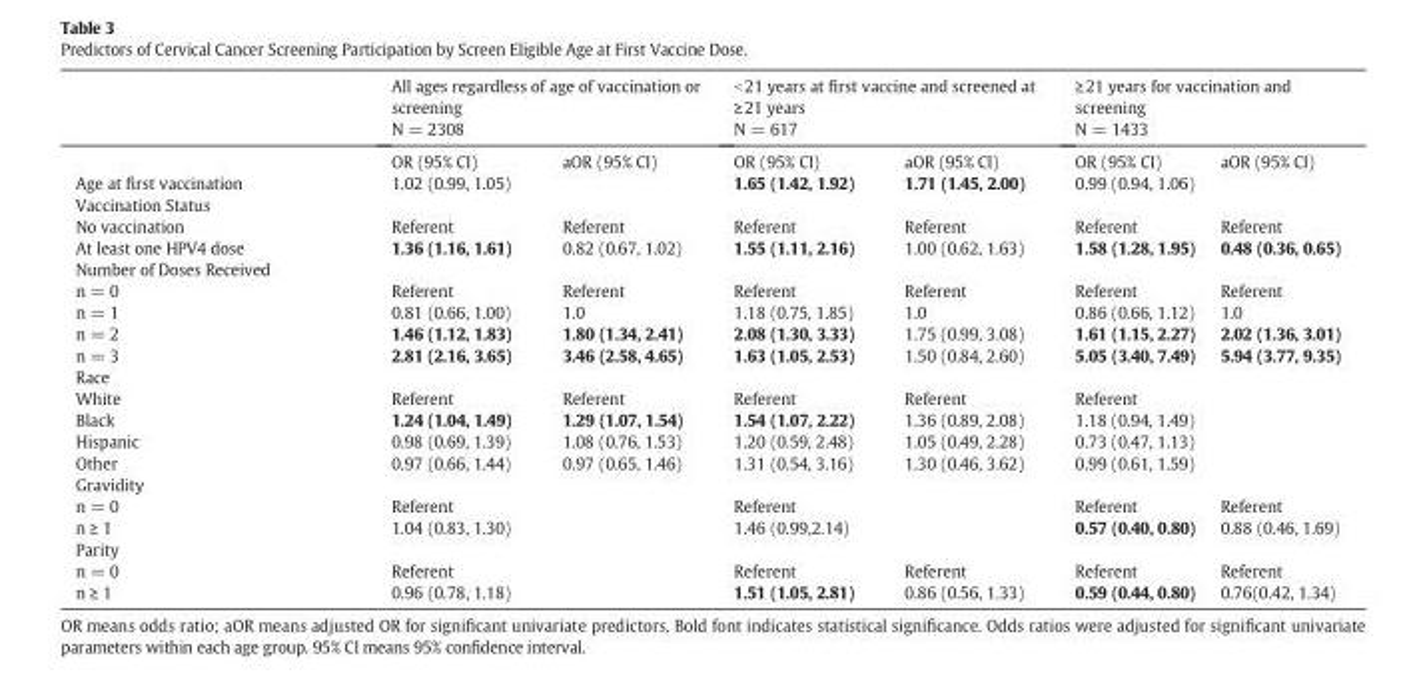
<table><thead><tr><td rowspan="2"></td><td colspan="2">All ages regardless of age of vaccination or screening N = 2308</td><td colspan="2">&lt;21 years at first vaccine and screened at ≥21 years N = 617</td><td colspan="2">≥21 years for vaccination and screening N = 1433</td></tr><tr><td>OR (95% CI)</td><td>aOR (95% CI)</td><td>OR (95% CI)</td><td>aOR (95% CI)</td><td>OR (95% CI)</td><td>aOR (95% CI)</td></tr></thead><tbody><tr><td>Age at first vaccination</td><td>1.02 (0.99, 1.05)</td><td></td><td>1.65 (1.42, 1.92)</td><td>1.71 (1.45, 2.00)</td><td>0.99 (0.94, 1.06)</td><td></td></tr><tr><td colspan="7">Vaccination Status</td></tr><tr><td>No vaccination</td><td>Referent</td><td>Referent</td><td>Referent</td><td>Referent</td><td>Referent</td><td>Referent</td></tr><tr><td>At least one HPV4 dose</td><td>1.36 (1.16, 1.61)</td><td>0.82 (0.67, 1.02)</td><td>1.55 (1.11, 2.16)</td><td>1.00 (0.62, 1.63)</td><td>1.58 (1.28, 1.95)</td><td>0.48 (0.36, 0.65)</td></tr><tr><td colspan="7">Number of Doses Received</td></tr><tr><td>n = 0</td><td>Referent</td><td>Referent</td><td>Referent</td><td>Referent</td><td>Referent</td><td>Referent</td></tr><tr><td>n = 1</td><td>0.81 (0.66, 1.00)</td><td>1.0</td><td>1.18 (0.75, 1.85)</td><td>1.0</td><td>0.86 (0.66, 1.12)</td><td>1.0</td></tr><tr><td>n = 2</td><td>1.46 (1.12, 1.83)</td><td>1.80 (1.34, 2.41)</td><td>2.08 (1.30, 3.33)</td><td>1.75 (0.99, 3.08)</td><td>1.61 (1.15, 2.27)</td><td>2.02 (1.36, 3.01)</td></tr><tr><td>n = 3</td><td>2.81 (2.16, 3.65)</td><td>3.46 (2.58, 4.65)</td><td>1.63 (1.05, 2.53)</td><td>1.50 (0.84, 2.60)</td><td>5.05 (3.40, 7.49)</td><td>5.94 (3.77, 9.35)</td></tr><tr><td colspan="7">Race</td></tr><tr><td>White</td><td>Referent</td><td>Referent</td><td>Referent</td><td>Referent</td><td>Referent</td><td></td></tr><tr><td>Black</td><td>1.24 (1.04, 1.49)</td><td>1.29 (1.07, 1.54)</td><td>1.54 (1.07, 2.22)</td><td>1.36 (0.89, 2.08)</td><td>1.18 (0.94, 1.49)</td><td></td></tr><tr><td>Hispanic</td><td>0.98 (0.69, 1.39)</td><td>1.08 (0.76, 1.53)</td><td>1.20 (0.59, 2.48)</td><td>1.05 (0.49, 2.28)</td><td>0.73 (0.47, 1.13)</td><td></td></tr><tr><td>Other</td><td>0.97 (0.66, 1.44)</td><td>0.97 (0.65, 1.46)</td><td>1.31 (0.54, 3.16)</td><td>1.30 (0.46, 3.62)</td><td>0.99 (0.61, 1.59)</td><td></td></tr><tr><td colspan="7">Gravidity</td></tr><tr><td>n = 0</td><td>Referent</td><td></td><td>Referent</td><td></td><td>Referent</td><td>Referent</td></tr><tr><td>n ≥ 1</td><td>1.04 (0.83, 1.30)</td><td></td><td>1.46 (0.99,2.14)</td><td></td><td>0.57 (0.40, 0.80)</td><td>0.88 (0.46, 1.69)</td></tr><tr><td colspan="7">Parity</td></tr><tr><td>n = 0</td><td>Referent</td><td></td><td>Referent</td><td>Referent</td><td>Referent</td><td>Referent</td></tr><tr><td>n ≥ 1</td><td>0.96 (0.78, 1.18)</td><td></td><td>1.51 (1.05, 2.81)</td><td>0.86 (0.56, 1.33)</td><td>0.59 (0.44, 0.80)</td><td>0.76(0.42, 1.34)</td></tr></tbody></table>